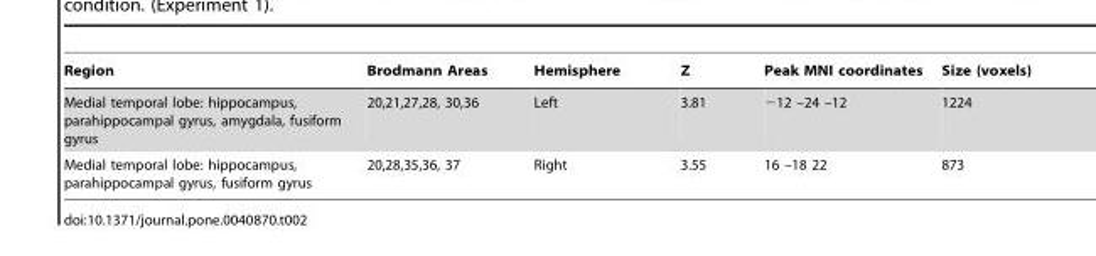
<table><thead><tr><td>Region</td><td>Brodmann Areas</td><td>Hemisphere</td><td>Z</td><td>Peak MNI coordinates</td><td>Size (voxels)</td></tr></thead><tbody><tr><td>Medial temporal lobe: hippocampus, parahippocampal gyrus, amygdala, fusiform gyrus</td><td>20,21,27,28, 30,36</td><td>Left</td><td>3.81</td><td>−12 –24 –12</td><td>1224</td></tr><tr><td>Medial temporal lobe: hippocampus, parahippocampal gyrus, fusiform gyrus</td><td>20,28,35,36, 37</td><td>Right</td><td>3.55</td><td>16 –18 22</td><td>873</td></tr></tbody></table>